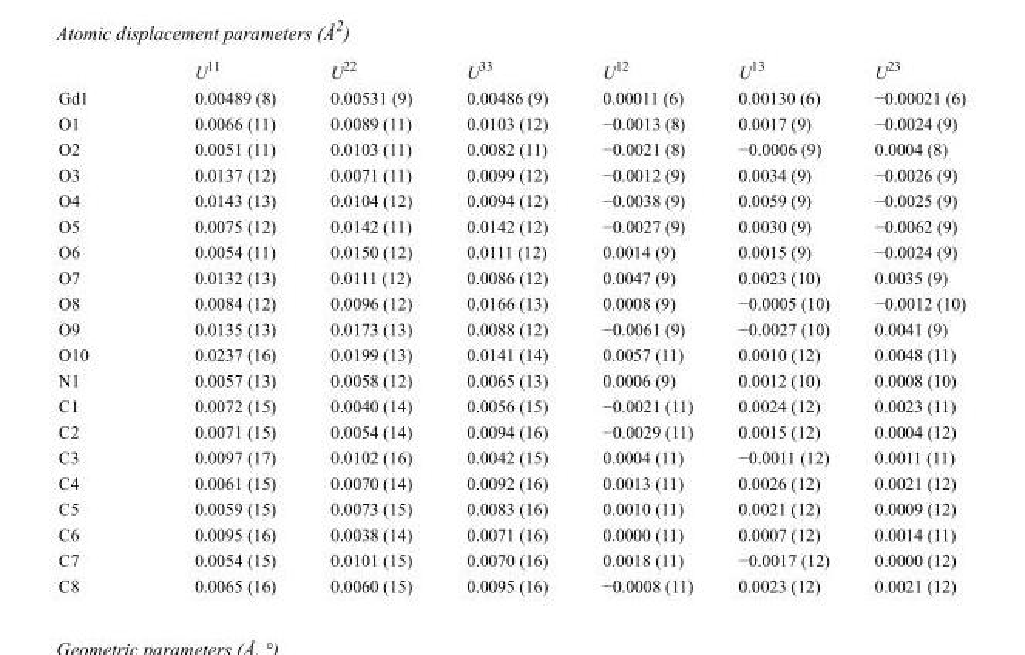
<table><thead><tr><td></td><td>U<sup>11</sup></td><td>U<sup>22</sup></td><td>U<sup>33</sup></td><td>U<sup>12</sup></td><td>U<sup>13</sup></td><td>U<sup>23</sup></td></tr></thead><tbody><tr><td>Gd1</td><td>0.00489 (8)</td><td>0.00531 (9)</td><td>0.00486 (9)</td><td>0.00011 (6)</td><td>0.00130 (6)</td><td>−0.00021 (6)</td></tr><tr><td>O1</td><td>0.0066 (11)</td><td>0.0089 (11)</td><td>0.0103 (12)</td><td>−0.0013 (8)</td><td>0.0017 (9)</td><td>−0.0024 (9)</td></tr><tr><td>O2</td><td>0.0051 (11)</td><td>0.0103 (11)</td><td>0.0082 (11)</td><td>−0.0021 (8)</td><td>−0.0006 (9)</td><td>0.0004 (8)</td></tr><tr><td>O3</td><td>0.0137 (12)</td><td>0.0071 (11)</td><td>0.0099 (12)</td><td>−0.0012 (9)</td><td>0.0034 (9)</td><td>−0.0026 (9)</td></tr><tr><td>O4</td><td>0.0143 (13)</td><td>0.0104 (12)</td><td>0.0094 (12)</td><td>−0.0038 (9)</td><td>0.0059 (9)</td><td>−0.0025 (9)</td></tr><tr><td>O5</td><td>0.0075 (12)</td><td>0.0142 (11)</td><td>0.0142 (12)</td><td>−0.0027 (9)</td><td>0.0030 (9)</td><td>−0.0062 (9)</td></tr><tr><td>O6</td><td>0.0054 (11)</td><td>0.0150 (12)</td><td>0.0111 (12)</td><td>0.0014 (9)</td><td>0.0015 (9)</td><td>−0.0024 (9)</td></tr><tr><td>O7</td><td>0.0132 (13)</td><td>0.0111 (12)</td><td>0.0086 (12)</td><td>0.0047 (9)</td><td>0.0023 (10)</td><td>0.0035 (9)</td></tr><tr><td>O8</td><td>0.0084 (12)</td><td>0.0096 (12)</td><td>0.0166 (13)</td><td>0.0008 (9)</td><td>−0.0005 (10)</td><td>−0.0012 (10)</td></tr><tr><td>O9</td><td>0.0135 (13)</td><td>0.0173 (13)</td><td>0.0088 (12)</td><td>−0.0061 (9)</td><td>−0.0027 (10)</td><td>0.0041 (9)</td></tr><tr><td>O10</td><td>0.0237 (16)</td><td>0.0199 (13)</td><td>0.0141 (14)</td><td>0.0057 (11)</td><td>0.0010 (12)</td><td>0.0048 (11)</td></tr><tr><td>N1</td><td>0.0057 (13)</td><td>0.0058 (12)</td><td>0.0065 (13)</td><td>0.0006 (9)</td><td>0.0012 (10)</td><td>0.0008 (10)</td></tr><tr><td>C1</td><td>0.0072 (15)</td><td>0.0040 (14)</td><td>0.0056 (15)</td><td>−0.0021 (11)</td><td>0.0024 (12)</td><td>0.0023 (11)</td></tr><tr><td>C2</td><td>0.0071 (15)</td><td>0.0054 (14)</td><td>0.0094 (16)</td><td>−0.0029 (11)</td><td>0.0015 (12)</td><td>0.0004 (12)</td></tr><tr><td>C3</td><td>0.0097 (17)</td><td>0.0102 (16)</td><td>0.0042 (15)</td><td>0.0004 (11)</td><td>−0.0011 (12)</td><td>0.0011 (11)</td></tr><tr><td>C4</td><td>0.0061 (15)</td><td>0.0070 (14)</td><td>0.0092 (16)</td><td>0.0013 (11)</td><td>0.0026 (12)</td><td>0.0021 (12)</td></tr><tr><td>C5</td><td>0.0059 (15)</td><td>0.0073 (15)</td><td>0.0083 (16)</td><td>0.0010 (11)</td><td>0.0021 (12)</td><td>0.0009 (12)</td></tr><tr><td>C6</td><td>0.0095 (16)</td><td>0.0038 (14)</td><td>0.0071 (16)</td><td>0.0000 (11)</td><td>0.0007 (12)</td><td>0.0014 (11)</td></tr><tr><td>C7</td><td>0.0054 (15)</td><td>0.0101 (15)</td><td>0.0070 (16)</td><td>0.0018 (11)</td><td>−0.0017 (12)</td><td>0.0000 (12)</td></tr><tr><td>C8</td><td>0.0065 (16)</td><td>0.0060 (15)</td><td>0.0095 (16)</td><td>−0.0008 (11)</td><td>0.0023 (12)</td><td>0.0021 (12)</td></tr></tbody></table>